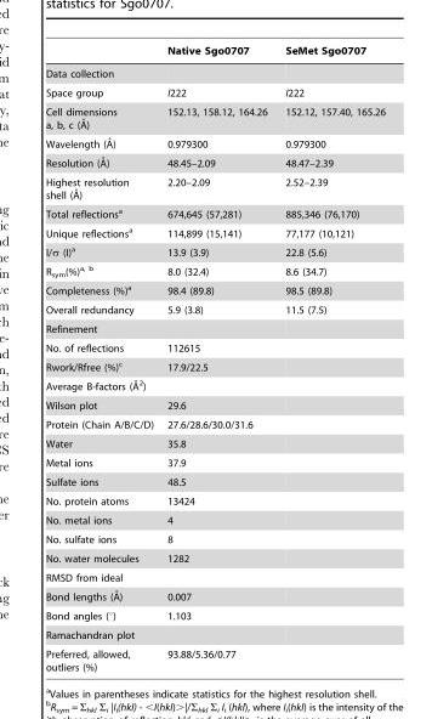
<table><thead><tr><td></td><td>Native Sgo0707</td><td>SeMet Sgo0707</td></tr></thead><tbody><tr><td colspan="3">Data collection</td></tr><tr><td>Space group</td><td>I222</td><td>I222</td></tr><tr><td>Cell dimensions a, b, c (A˚)</td><td>152.13, 158.12, 164.26</td><td>152.12, 157.40, 165.26</td></tr><tr><td>Wavelength (A˚)</td><td>0.979300</td><td>0.979300</td></tr><tr><td>Resolution (A˚)</td><td>48.45–2.09</td><td>48.47–2.39</td></tr><tr><td>Highest resolution shell (A˚)</td><td>2.20–2.09</td><td>2.52–2.39</td></tr><tr><td>Total reflections<sup>a</sup></td><td>674,645 (57,281)</td><td>885,346 (76,170)</td></tr><tr><td>Unique reflections<sup>a</sup></td><td>114,899 (15,141)</td><td>77,177 (10,121)</td></tr><tr><td>I/σ (I)<sup>a</sup></td><td>13.9 (3.9)</td><td>22.8 (5.6)</td></tr><tr><td>R<sub>sym</sub>(%)a, b</td><td>8.0 (32.4)</td><td>8.6 (34.7)</td></tr><tr><td>Completeness (%)<sup>a</sup></td><td>98.4 (89.8)</td><td>98.5 (89.8)</td></tr><tr><td>Overall redundancy</td><td>5.9 (3.8)</td><td>11.5 (7.5)</td></tr><tr><td colspan="3">Refinement</td></tr><tr><td>No. of reflections</td><td>112615</td><td></td></tr><tr><td>Rwork/Rfree (%)<sup>c</sup></td><td>17.9/22.5</td><td></td></tr><tr><td colspan="3">Average B-factors (A˚ 2)</td></tr><tr><td>Wilson plot</td><td>29.6</td><td></td></tr><tr><td>Protein (Chain A/B/C/D)</td><td>27.6/28.6/30.0/31.6</td><td></td></tr><tr><td>Water</td><td>35.8</td><td></td></tr><tr><td>Metal ions</td><td>37.9</td><td></td></tr><tr><td>Sulfate ions</td><td>48.5</td><td></td></tr><tr><td>No. protein atoms</td><td>13424</td><td></td></tr><tr><td>No. metal ions</td><td>4</td><td></td></tr><tr><td>No. sulfate ions</td><td>8</td><td></td></tr><tr><td>No. water molecules</td><td>1282</td><td></td></tr><tr><td colspan="3">RMSD from ideal</td></tr><tr><td>Bond lengths (A˚)</td><td>0.007</td><td></td></tr><tr><td>Bond angles (°)</td><td>1.103</td><td></td></tr><tr><td colspan="3">Ramachandran plot</td></tr><tr><td>Preferred, allowed, outliers (%)</td><td>93.88/5.36/0.77</td><td></td></tr></tbody></table>